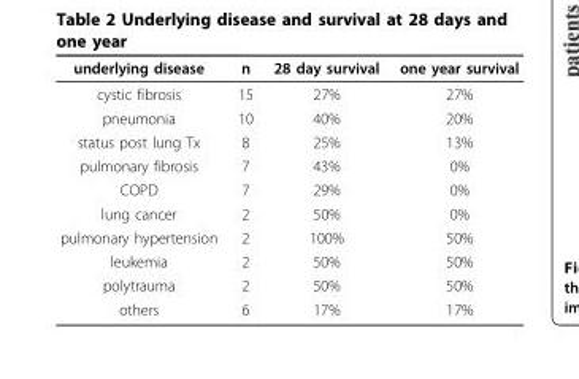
<table><thead><tr><td>underlying disease</td><td>n</td><td>28 day survival</td><td>one year survival</td></tr></thead><tbody><tr><td>cystic fibrosis</td><td>15</td><td>27%</td><td>27%</td></tr><tr><td>pneumonia</td><td>10</td><td>40%</td><td>20%</td></tr><tr><td>status post lung Tx</td><td>8</td><td>25%</td><td>13%</td></tr><tr><td>pulmonary fibrosis</td><td>7</td><td>43%</td><td>0%</td></tr><tr><td>COPD</td><td>7</td><td>29%</td><td>0%</td></tr><tr><td>lung cancer</td><td>2</td><td>50%</td><td>0%</td></tr><tr><td>pulmonary hypertension</td><td>2</td><td>100%</td><td>50%</td></tr><tr><td>leukemia</td><td>2</td><td>50%</td><td>50%</td></tr><tr><td>polytrauma</td><td>2</td><td>50%</td><td>50%</td></tr><tr><td>others</td><td>6</td><td>17%</td><td>17%</td></tr></tbody></table>